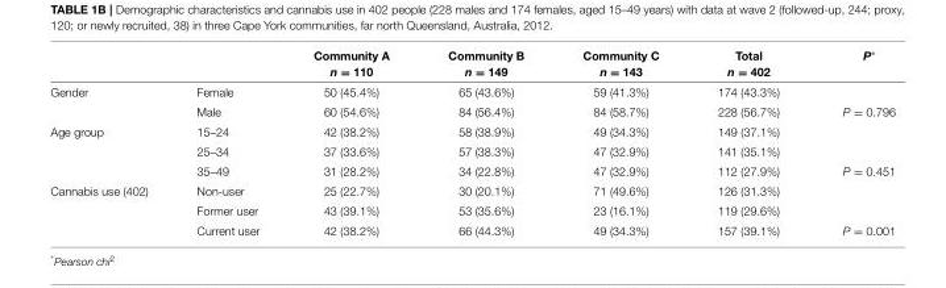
<table><thead><tr><td></td><td></td><td>Community A n = 110</td><td>Community B n = 149</td><td>Community C n = 143</td><td>Total n = 402</td><td>P*</td></tr></thead><tbody><tr><td rowspan="2">Gender</td><td>Female</td><td>50 (45.4%)</td><td>65 (43.6%)</td><td>59 (41.3%)</td><td>174 (43.3%)</td><td></td></tr><tr><td>Male</td><td>60 (54.6%)</td><td>84 (56.4%)</td><td>84 (58.7%)</td><td>228 (56.7%)</td><td>P = 0.796</td></tr><tr><td rowspan="3">Age group</td><td>15–24</td><td>42 (38.2%)</td><td>58 (38.9%)</td><td>49 (34.3%)</td><td>149 (37.1%)</td><td></td></tr><tr><td>25–34</td><td>37 (33.6%)</td><td>57 (38.3%)</td><td>47 (32.9%)</td><td>141 (35.1%)</td><td></td></tr><tr><td>35–49</td><td>31 (28.2%)</td><td>34 (22.8%)</td><td>47 (32.9%)</td><td>112 (27.9%)</td><td>P = 0.451</td></tr><tr><td rowspan="3">Cannabis use (402)</td><td>Non-user</td><td>25 (22.7%)</td><td>30 (20.1%)</td><td>71 (49.6%)</td><td>126 (31.3%)</td><td></td></tr><tr><td>Former user</td><td>43 (39.1%)</td><td>53 (35.6%)</td><td>23 (16.1%)</td><td>119 (29.6%)</td><td></td></tr><tr><td>Current user</td><td>42 (38.2%)</td><td>66 (44.3%)</td><td>49 (34.3%)</td><td>157 (39.1%)</td><td>P = 0.001</td></tr></tbody></table>